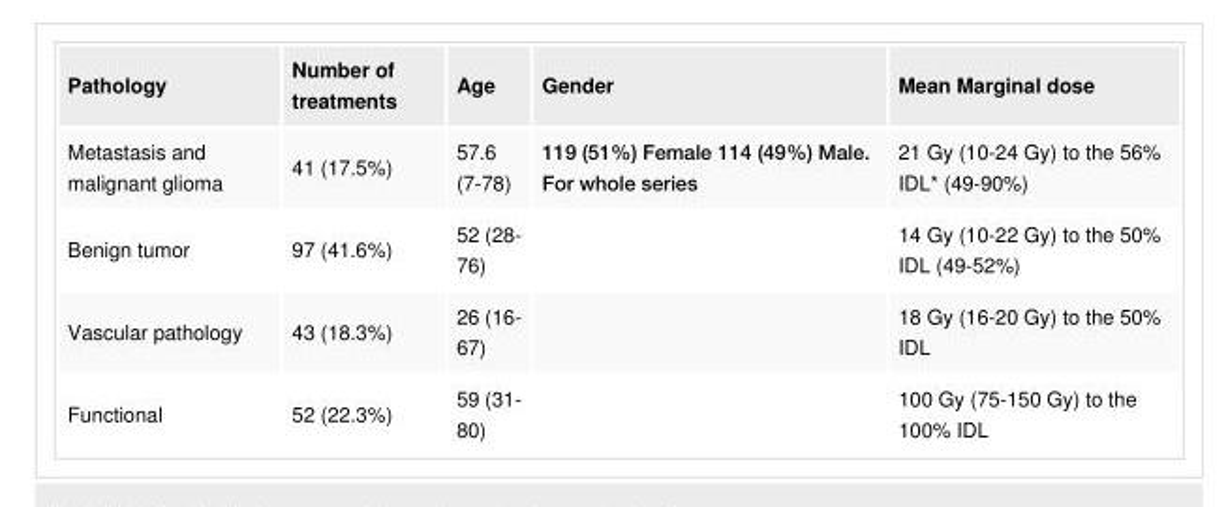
<table><tbody><tr><td>Pathology</td><td>Number of treatments</td><td>Age</td><td>Gender</td><td>Mean Marginal dose</td></tr><tr><td>Metastasis and malignant glioma</td><td>41 (17.5%)</td><td>57.6 (7-78)</td><td>119 (51%) Female 114 (49%) Male. For whole series</td><td>21 Gy (10-24 Gy) to the 56% IDL* (49-90%)</td></tr><tr><td>Benign tumor</td><td>97 (41.6%)</td><td>52 (28- 76)</td><td></td><td>14 Gy (10-22 Gy) to the 50% IDL (49-52%)</td></tr><tr><td>Vascular pathology</td><td>43 (18.3%)</td><td>26 (16- 67)</td><td></td><td>18 Gy (16-20 Gy) to the 50% IDL</td></tr><tr><td>Functional</td><td>52 (22.3%)</td><td>59 (31- 80)</td><td></td><td>100 Gy (75-150 Gy) to the 100% IDL</td></tr></tbody></table>